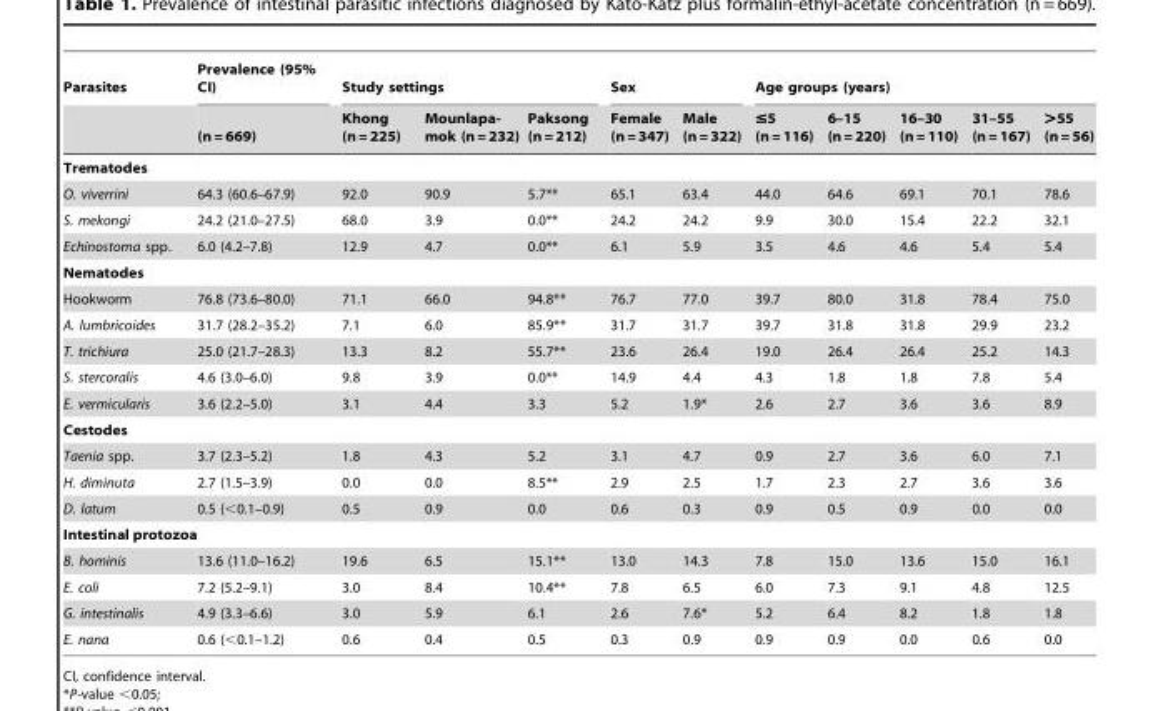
<table><thead><tr><td rowspan="2">Parasites</td><td rowspan="2">Prevalence (95% CI) (n = 669)</td><td colspan="3">Study settings</td><td colspan="2">Sex</td><td colspan="5">Age groups (years)</td></tr><tr><td>Khong (n = 225)</td><td>Mounlapa- mok (n = 232)</td><td>Paksong (n = 212)</td><td>Female (n = 347)</td><td>Male (n = 322)</td><td>≤5 (n = 116)</td><td>6–15 (n = 220)</td><td>16–30 (n = 110)</td><td>31–55 (n = 167)</td><td>&gt;55 (n = 56)</td></tr></thead><tbody><tr><td colspan="12">Trematodes</td></tr><tr><td>O. viverrini</td><td>64.3 (60.6–67.9)</td><td>92.0</td><td>90.9</td><td>5.7**</td><td>65.1</td><td>63.4</td><td>44.0</td><td>64.6</td><td>69.1</td><td>70.1</td><td>78.6</td></tr><tr><td>S. mekongi</td><td>24.2 (21.0–27.5)</td><td>68.0</td><td>3.9</td><td>0.0**</td><td>24.2</td><td>24.2</td><td>9.9</td><td>30.0</td><td>15.4</td><td>22.2</td><td>32.1</td></tr><tr><td>Echinostoma spp.</td><td>6.0 (4.2–7.8)</td><td>12.9</td><td>4.7</td><td>0.0**</td><td>6.1</td><td>5.9</td><td>3.5</td><td>4.6</td><td>4.6</td><td>5.4</td><td>5.4</td></tr><tr><td colspan="12">Nematodes</td></tr><tr><td>Hookworm</td><td>76.8 (73.6–80.0)</td><td>71.1</td><td>66.0</td><td>94.8**</td><td>76.7</td><td>77.0</td><td>39.7</td><td>80.0</td><td>31.8</td><td>78.4</td><td>75.0</td></tr><tr><td>A. lumbricoides</td><td>31.7 (28.2–35.2)</td><td>7.1</td><td>6.0</td><td>85.9**</td><td>31.7</td><td>31.7</td><td>39.7</td><td>31.8</td><td>31.8</td><td>29.9</td><td>23.2</td></tr><tr><td>T. trichiura</td><td>25.0 (21.7–28.3)</td><td>13.3</td><td>8.2</td><td>55.7**</td><td>23.6</td><td>26.4</td><td>19.0</td><td>26.4</td><td>26.4</td><td>25.2</td><td>14.3</td></tr><tr><td>S. stercoralis</td><td>4.6 (3.0–6.0)</td><td>9.8</td><td>3.9</td><td>0.0**</td><td>14.9</td><td>4.4</td><td>4.3</td><td>1.8</td><td>1.8</td><td>7.8</td><td>5.4</td></tr><tr><td>E. vermicularis</td><td>3.6 (2.2–5.0)</td><td>3.1</td><td>4.4</td><td>3.3</td><td>5.2</td><td>1.9*</td><td>2.6</td><td>2.7</td><td>3.6</td><td>3.6</td><td>8.9</td></tr><tr><td colspan="12">Cestodes</td></tr><tr><td>Taenia spp.</td><td>3.7 (2.3–5.2)</td><td>1.8</td><td>4.3</td><td>5.2</td><td>3.1</td><td>4.7</td><td>0.9</td><td>2.7</td><td>3.6</td><td>6.0</td><td>7.1</td></tr><tr><td>H. diminuta</td><td>2.7 (1.5–3.9)</td><td>0.0</td><td>0.0</td><td>8.5**</td><td>2.9</td><td>2.5</td><td>1.7</td><td>2.3</td><td>2.7</td><td>3.6</td><td>3.6</td></tr><tr><td>D. latum</td><td>0.5 (&lt;0.1–0.9)</td><td>0.5</td><td>0.9</td><td>0.0</td><td>0.6</td><td>0.3</td><td>0.9</td><td>0.5</td><td>0.9</td><td>0.0</td><td>0.0</td></tr><tr><td colspan="12">Intestinal protozoa</td></tr><tr><td>B. hominis</td><td>13.6 (11.0–16.2)</td><td>19.6</td><td>6.5</td><td>15.1**</td><td>13.0</td><td>14.3</td><td>7.8</td><td>15.0</td><td>13.6</td><td>15.0</td><td>16.1</td></tr><tr><td>E. coli</td><td>7.2 (5.2–9.1)</td><td>3.0</td><td>8.4</td><td>10.4**</td><td>7.8</td><td>6.5</td><td>6.0</td><td>7.3</td><td>9.1</td><td>4.8</td><td>12.5</td></tr><tr><td>G. intestinalis</td><td>4.9 (3.3–6.6)</td><td>3.0</td><td>5.9</td><td>6.1</td><td>2.6</td><td>7.6*</td><td>5.2</td><td>6.4</td><td>8.2</td><td>1.8</td><td>1.8</td></tr><tr><td>E. nana</td><td>0.6 (&lt;0.1–1.2)</td><td>0.6</td><td>0.4</td><td>0.5</td><td>0.3</td><td>0.9</td><td>0.9</td><td>0.9</td><td>0.0</td><td>0.6</td><td>0.0</td></tr></tbody></table>